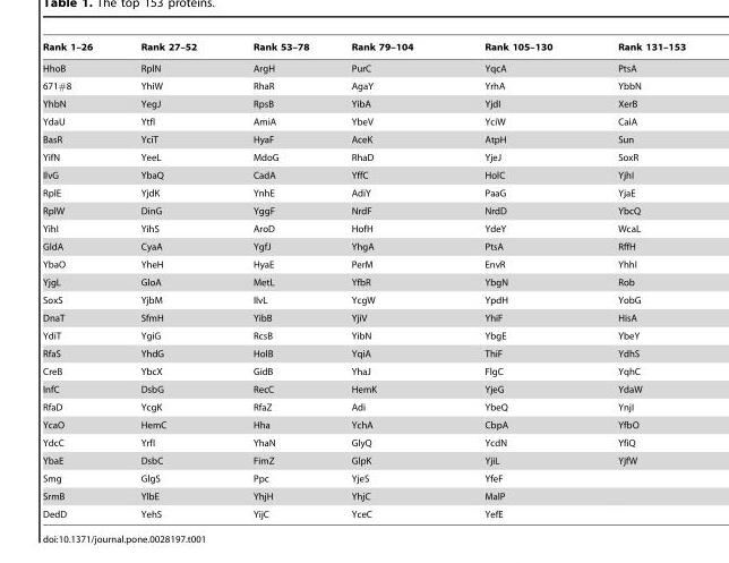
<table><thead><tr><td>Rank 1–26</td><td>Rank 27–52</td><td>Rank 53–78</td><td>Rank 79–104</td><td>Rank 105–130</td><td>Rank 131–153</td></tr></thead><tbody><tr><td>HhoB</td><td>RplN</td><td>ArgH</td><td>PurC</td><td>YqcA</td><td>PtsA</td></tr><tr><td>671#8</td><td>YhiW</td><td>RhaR</td><td>AgaY</td><td>YrhA</td><td>YbbN</td></tr><tr><td>YhbN</td><td>YegJ</td><td>RpsB</td><td>YibA</td><td>YjdI</td><td>XerB</td></tr><tr><td>YdaU</td><td>YtfI</td><td>AmiA</td><td>YbeV</td><td>YciW</td><td>CaiA</td></tr><tr><td>BasR</td><td>YciT</td><td>HyaF</td><td>AceK</td><td>AtpH</td><td>Sun</td></tr><tr><td>YifN</td><td>YeeL</td><td>MdoG</td><td>RhaD</td><td>YjeJ</td><td>SoxR</td></tr><tr><td>IlvG</td><td>YbaQ</td><td>CadA</td><td>YffC</td><td>HolC</td><td>YjhI</td></tr><tr><td>RplE</td><td>YjdK</td><td>YnhE</td><td>AdiY</td><td>PaaG</td><td>YjaE</td></tr><tr><td>RplW</td><td>DinG</td><td>YggF</td><td>NrdF</td><td>NrdD</td><td>YbcQ</td></tr><tr><td>YihI</td><td>YihS</td><td>AroD</td><td>HofH</td><td>YdeY</td><td>WcaL</td></tr><tr><td>GldA</td><td>CyaA</td><td>YgfJ</td><td>YhgA</td><td>PtsA</td><td>RffH</td></tr><tr><td>YbaO</td><td>YheH</td><td>HyaE</td><td>PerM</td><td>EnvR</td><td>YhhI</td></tr><tr><td>YjgL</td><td>GloA</td><td>MetL</td><td>YfbR</td><td>YbgN</td><td>Rob</td></tr><tr><td>SoxS</td><td>YjbM</td><td>IlvL</td><td>YcgW</td><td>YpdH</td><td>YobG</td></tr><tr><td>DnaT</td><td>SfmH</td><td>YibB</td><td>YjiV</td><td>YhiF</td><td>HisA</td></tr><tr><td>YdiT</td><td>YgiG</td><td>RcsB</td><td>YibN</td><td>YbgE</td><td>YbeY</td></tr><tr><td>RfaS</td><td>YhdG</td><td>HolB</td><td>YqiA</td><td>ThiF</td><td>YdhS</td></tr><tr><td>CreB</td><td>YbcX</td><td>GidB</td><td>YhaJ</td><td>FlgC</td><td>YqhC</td></tr><tr><td>InfC</td><td>DsbG</td><td>RecC</td><td>HemK</td><td>YjeG</td><td>YdaW</td></tr><tr><td>RfaD</td><td>YcgK</td><td>RfaZ</td><td>Adi</td><td>YbeQ</td><td>YnjI</td></tr><tr><td>YcaO</td><td>HemC</td><td>Hha</td><td>YchA</td><td>CbpA</td><td>YfbO</td></tr><tr><td>YdcC</td><td>YrfI</td><td>YhaN</td><td>GlyQ</td><td>YcdN</td><td>YfiQ</td></tr><tr><td>YbaE</td><td>DsbC</td><td>FimZ</td><td>GlpK</td><td>YjiL</td><td>YjfW</td></tr><tr><td>Smg</td><td>GlgS</td><td>Ppc</td><td>YjeS</td><td>YfeF</td><td></td></tr><tr><td>SrmB</td><td>YlbE</td><td>YhjH</td><td>YhjC</td><td>MalP</td><td></td></tr><tr><td>DedD</td><td>YehS</td><td>YijC</td><td>YceC</td><td>YefE</td><td></td></tr></tbody></table>